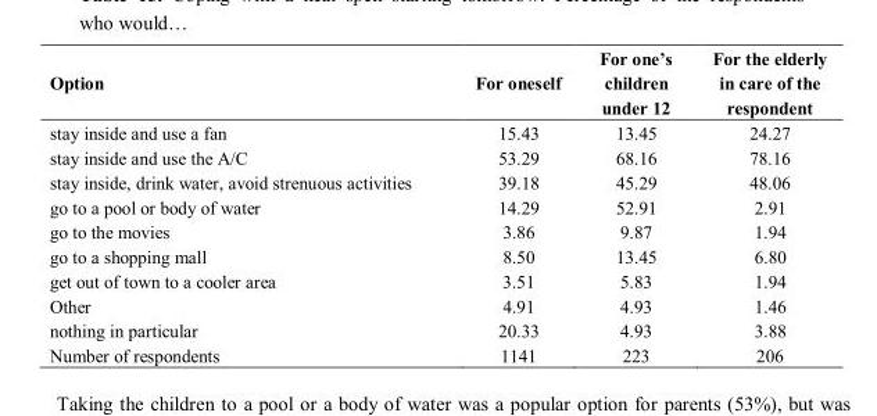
<table><thead><tr><td>Option</td><td>For oneself</td><td>For one’s children under 12</td><td>For the elderly in care of the respondent</td></tr></thead><tbody><tr><td>stay inside and use a fan</td><td>15.43</td><td>13.45</td><td>24.27</td></tr><tr><td>stay inside and use the A/C</td><td>53.29</td><td>68.16</td><td>78.16</td></tr><tr><td>stay inside, drink water, avoid strenuous activities</td><td>39.18</td><td>45.29</td><td>48.06</td></tr><tr><td>go to a pool or body of water</td><td>14.29</td><td>52.91</td><td>2.91</td></tr><tr><td>go to the movies</td><td>3.86</td><td>9.87</td><td>1.94</td></tr><tr><td>go to a shopping mall</td><td>8.50</td><td>13.45</td><td>6.80</td></tr><tr><td>get out of town to a cooler area</td><td>3.51</td><td>5.83</td><td>1.94</td></tr><tr><td>Other</td><td>4.91</td><td>4.93</td><td>1.46</td></tr><tr><td>nothing in particular</td><td>20.33</td><td>4.93</td><td>3.88</td></tr><tr><td>Number of respondents</td><td>1141</td><td>223</td><td>206</td></tr></tbody></table>